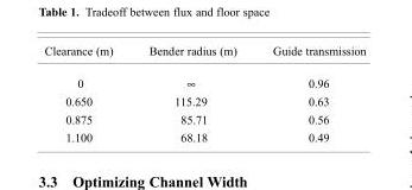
<table><thead><tr><td>Clearance (m)</td><td>Bender radius (m)</td><td>Guide transmission</td></tr></thead><tbody><tr><td>0</td><td>∞</td><td>0.96</td></tr><tr><td>0.650</td><td>115.29</td><td>0.63</td></tr><tr><td>0.875</td><td>85.71</td><td>0.56</td></tr><tr><td>1.100</td><td>68.18</td><td>0.49</td></tr></tbody></table>